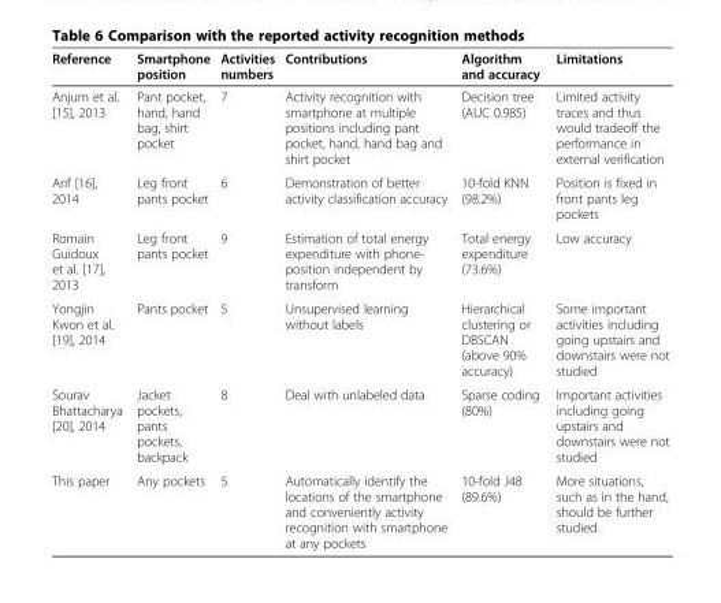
<table><thead><tr><td>Reference</td><td>Smartphone position</td><td>Activities numbers</td><td>Contributions</td><td>Algorithm and accuracy</td><td>Limitations</td></tr></thead><tbody><tr><td>Anjum et al. [15], 2013</td><td>Pant pocket, hand, hand bag, shirt pocket</td><td>7</td><td>Activity recognition with smartphone at multiple positions including pant pocket, hand, hand bag and shirt pocket</td><td>Decision tree (AUC 0.985)</td><td>Limited activity traces and thus would tradeoff the performance in external verification</td></tr><tr><td>Arif [16], 2014</td><td>Leg front pants pocket</td><td>6</td><td>Demonstration of better activity classification accuracy</td><td>10-fold KNN (98.2%)</td><td>Position is fixed in front pants leg pockets</td></tr><tr><td>Romain Guidoux et al. [17], 2013</td><td>Leg front pants pocket</td><td>9</td><td>Estimation of total energy expenditure with phone- position independent by transform</td><td>Total energy expenditure (73.6%)</td><td>Low accuracy</td></tr><tr><td>Yongjin Kwon et al. [19], 2014</td><td>Pants pocket</td><td>5</td><td>Unsupervised learning without labels</td><td>Hierarchical clustering or DBSCAN (above 90% accuracy)</td><td>Some important activities including going upstairs and downstairs were not studied</td></tr><tr><td>Sourav Bhattacharya [20], 2014</td><td>Jacket pockets, pants pockets, backpack</td><td>8</td><td>Deal with unlabeled data</td><td>Sparse coding (80%)</td><td>Important activities including going upstairs and downstairs were not studied</td></tr><tr><td>This paper</td><td>Any pockets</td><td>5</td><td>Automatically identify the locations of the smartphone and conveniently activity recognition with smartphone at any pockets</td><td>10-fold J48 (89.6%)</td><td>More situations, such as in the hand, should be further studied</td></tr></tbody></table>